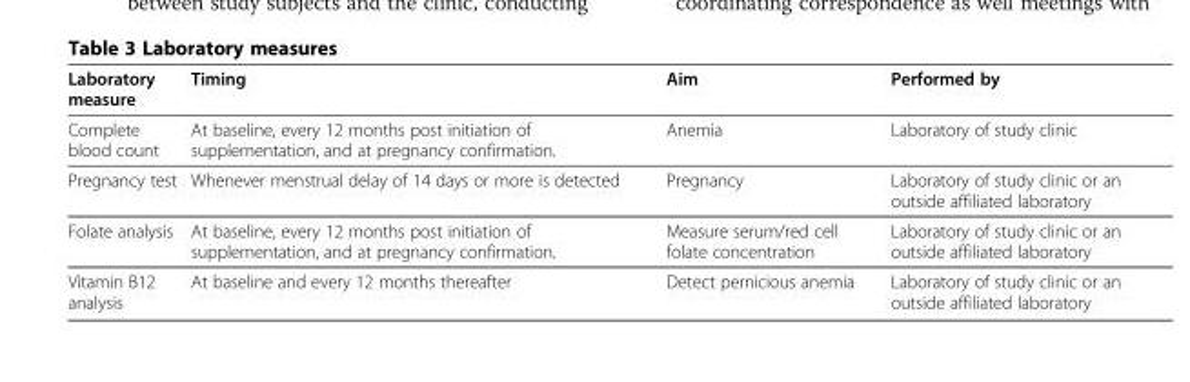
<table><thead><tr><td>Laboratory measure</td><td>Timing</td><td>Aim</td><td>Performed by</td></tr></thead><tbody><tr><td>Complete blood count</td><td>At baseline, every 12 months post initiation of supplementation, and at pregnancy confirmation.</td><td>Anemia</td><td>Laboratory of study clinic</td></tr><tr><td>Pregnancy test</td><td>Whenever menstrual delay of 14 days or more is detected</td><td>Pregnancy</td><td>Laboratory of study clinic or an outside affiliated laboratory</td></tr><tr><td>Folate analysis</td><td>At baseline, every 12 months post initiation of supplementation, and at pregnancy confirmation.</td><td>Measure serum/red cell folate concentration</td><td>Laboratory of study clinic or an outside affiliated laboratory</td></tr><tr><td>Vitamin B12 analysis</td><td>At baseline and every 12 months thereafter</td><td>Detect pernicious anemia</td><td>Laboratory of study clinic or an outside affiliated laboratory</td></tr></tbody></table>